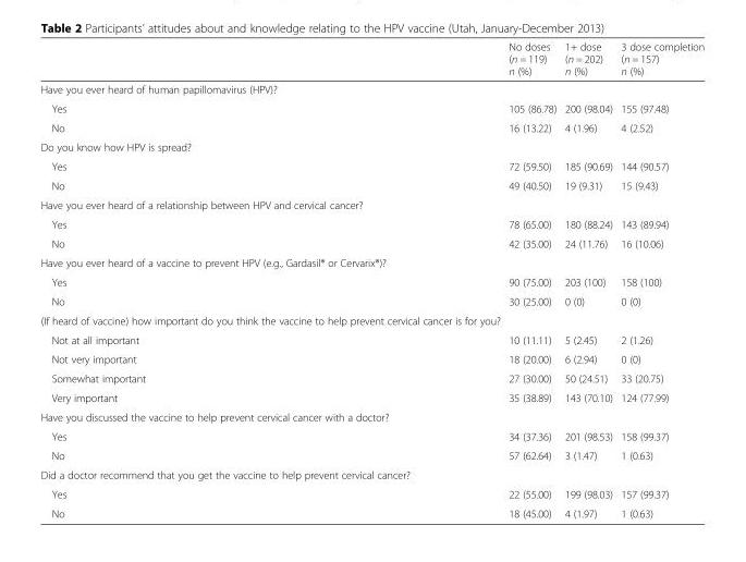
<table><thead><tr><td></td><td>No doses (n = 119) n (%)</td><td>1+ dose (n = 202) n (%)</td><td>3 dose completion (n = 157) n (%)</td></tr></thead><tbody><tr><td colspan="4">Have you ever heard of human papillomavirus (HPV)?</td></tr><tr><td>Yes</td><td>105 (86.78)</td><td>200 (98.04)</td><td>155 (97.48)</td></tr><tr><td>No</td><td>16 (13.22)</td><td>4 (1.96)</td><td>4 (2.52)</td></tr><tr><td colspan="4">Do you know how HPV is spread?</td></tr><tr><td>Yes</td><td>72 (59.50)</td><td>185 (90.69)</td><td>144 (90.57)</td></tr><tr><td>No</td><td>49 (40.50)</td><td>19 (9.31)</td><td>15 (9.43)</td></tr><tr><td colspan="4">Have you ever heard of a relationship between HPV and cervical cancer?</td></tr><tr><td>Yes</td><td>78 (65.00)</td><td>180 (88.24)</td><td>143 (89.94)</td></tr><tr><td>No</td><td>42 (35.00)</td><td>24 (11.76)</td><td>16 (10.06)</td></tr><tr><td colspan="4">Have you ever heard of a vaccine to prevent HPV (e.g., Gardasil® or Cervarix®)?</td></tr><tr><td>Yes</td><td>90 (75.00)</td><td>203 (100)</td><td>158 (100)</td></tr><tr><td>No</td><td>30 (25.00)</td><td>0 (0)</td><td>0 (0)</td></tr><tr><td colspan="4">(If heard of vaccine) how important do you think the vaccine to help prevent cervical cancer is for you?</td></tr><tr><td>Not at all important</td><td>10 (11.11)</td><td>5 (2.45)</td><td>2 (1.26)</td></tr><tr><td>Not very important</td><td>18 (20.00)</td><td>6 (2.94)</td><td>0 (0)</td></tr><tr><td>Somewhat important</td><td>27 (30.00)</td><td>50 (24.51)</td><td>33 (20.75)</td></tr><tr><td>Very important</td><td>35 (38.89)</td><td>143 (70.10)</td><td>124 (77.99)</td></tr><tr><td colspan="4">Have you discussed the vaccine to help prevent cervical cancer with a doctor?</td></tr><tr><td>Yes</td><td>34 (37.36)</td><td>201 (98.53)</td><td>158 (99.37)</td></tr><tr><td>No</td><td>57 (62.64)</td><td>3 (1.47)</td><td>1 (0.63)</td></tr><tr><td colspan="4">Did a doctor recommend that you get the vaccine to help prevent cervical cancer?</td></tr><tr><td>Yes</td><td>22 (55.00)</td><td>199 (98.03)</td><td>157 (99.37)</td></tr><tr><td>No</td><td>18 (45.00)</td><td>4 (1.97)</td><td>1 (0.63)</td></tr></tbody></table>